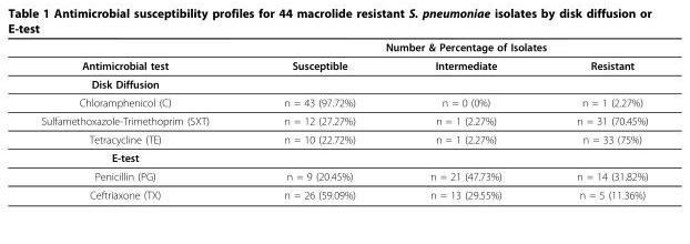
<table><thead><tr><td rowspan="2">Antimicrobial test</td><td colspan="3">Number &amp; Percentage of Isolates</td></tr><tr><td>Susceptible</td><td>Intermediate</td><td>Resistant</td></tr></thead><tbody><tr><td colspan="4">Disk Diffusion</td></tr><tr><td>Chloramphenicol (C)</td><td>n = 43 (97.72%)</td><td>n = 0 (0%)</td><td>n = 1 (2.27%)</td></tr><tr><td>Sulfamethoxazole-Trimethoprim (SXT)</td><td>n = 12 (27.27%)</td><td>n = 1 (2.27%)</td><td>n = 31 (70.45%)</td></tr><tr><td>Tetracycline (TE)</td><td>n = 10 (22.72%)</td><td>n = 1 (2.27%)</td><td>n = 33 (75%)</td></tr><tr><td colspan="4">E-test</td></tr><tr><td>Penicillin (PG)</td><td>n = 9 (20.45%)</td><td>n = 21 (47.73%)</td><td>n = 14 (31.82%)</td></tr><tr><td>Ceftriaxone (TX)</td><td>n = 26 (59.09%)</td><td>n = 13 (29.55%)</td><td>n = 5 (11.36%)</td></tr></tbody></table>